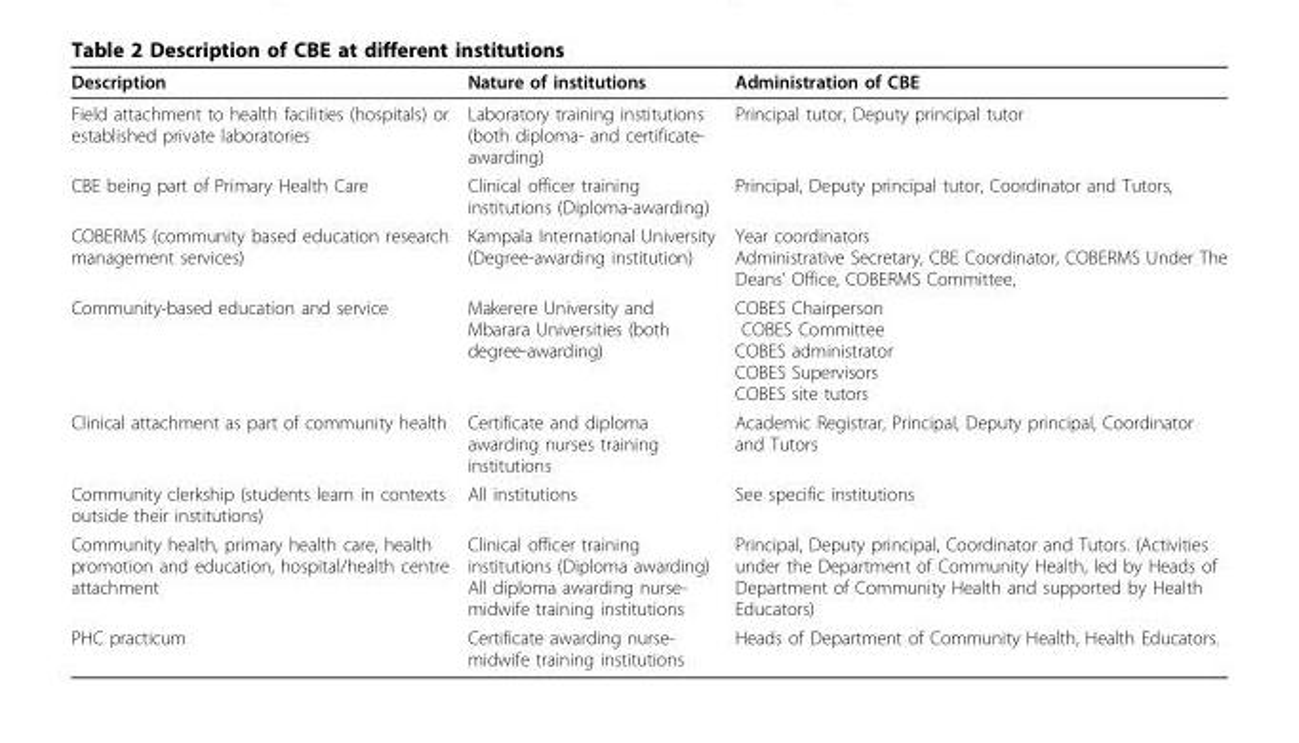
<table><thead><tr><td>Description</td><td>Nature of institutions</td><td>Administration of CBE</td></tr></thead><tbody><tr><td>Field attachment to health facilities (hospitals) or established private laboratories</td><td>Laboratory training institutions (both diploma- and certificate- awarding)</td><td>Principal tutor, Deputy principal tutor</td></tr><tr><td>CBE being part of Primary Health Care</td><td>Clinical officer training institutions (Diploma-awarding)</td><td>Principal, Deputy principal tutor, Coordinator and Tutors,</td></tr><tr><td>COBERMS (community based education research management services)</td><td>Kampala International University (Degree-awarding institution)</td><td>Year coordinators Administrative Secretary, CBE Coordinator, COBERMS Under The Deans’ Office, COBERMS Committee,</td></tr><tr><td>Community-based education and service</td><td>Makerere University and Mbarara Universities (both degree-awarding)</td><td>COBES Chairperson COBES Committee COBES administrator COBES Supervisors COBES site tutors</td></tr><tr><td>Clinical attachment as part of community health</td><td>Certificate and diploma awarding nurses training institutions</td><td>Academic Registrar, Principal, Deputy principal, Coordinator and Tutors</td></tr><tr><td>Community clerkship (students learn in contexts outside their institutions)</td><td>All institutions</td><td>See specific institutions</td></tr><tr><td>Community health, primary health care, health promotion and education, hospital/health centre attachment</td><td>Clinical officer training institutions (Diploma awarding) All diploma awarding nurse- midwife training institutions</td><td>Principal, Deputy principal, Coordinator and Tutors. (Activities under the Department of Community Health, led by Heads of Department of Community Health and supported by Health Educators)</td></tr><tr><td>PHC practicum</td><td>Certificate awarding nurse- midwife training institutions</td><td>Heads of Department of Community Health, Health Educators.</td></tr></tbody></table>